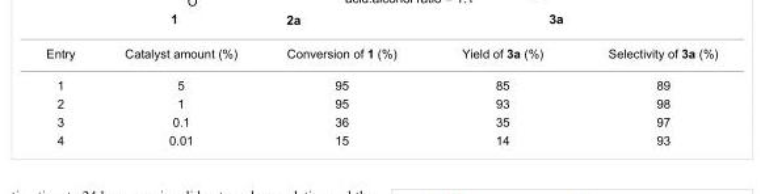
<table><tbody><tr><td>Entry</td><td>Catalyst amount (%)</td><td>Conversion of 1 (%)</td><td>Yield of 3a (%)</td><td>Selectivity of 3a (%)</td></tr><tr><td>1</td><td>5</td><td>95</td><td>85</td><td>89</td></tr><tr><td>2</td><td>1</td><td>95</td><td>93</td><td>98</td></tr><tr><td>3</td><td>0.1</td><td>36</td><td>35</td><td>97</td></tr><tr><td>4</td><td>0.01</td><td>15</td><td>14</td><td>93</td></tr></tbody></table>